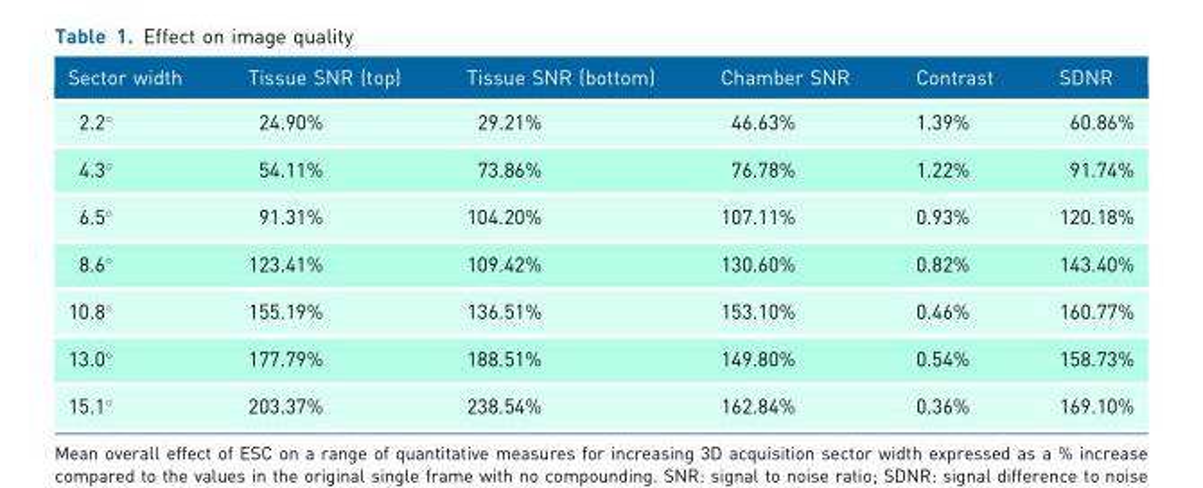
<table><thead><tr><td>Sector width</td><td>Tissue SNR (top)</td><td>Tissue SNR (bottom)</td><td>Chamber SNR</td><td>Contrast</td><td>SDNR</td></tr></thead><tbody><tr><td>2.2°</td><td>24.90%</td><td>29.21%</td><td>46.63%</td><td>1.39%</td><td>60.86%</td></tr><tr><td>4.3°</td><td>54.11%</td><td>73.86%</td><td>76.78%</td><td>1.22%</td><td>91.74%</td></tr><tr><td>6.5°</td><td>91.31%</td><td>104.20%</td><td>107.11%</td><td>0.93%</td><td>120.18%</td></tr><tr><td>8.6°</td><td>123.41%</td><td>109.42%</td><td>130.60%</td><td>0.82%</td><td>143.40%</td></tr><tr><td>10.8°</td><td>155.19%</td><td>136.51%</td><td>153.10%</td><td>0.46%</td><td>160.77%</td></tr><tr><td>13.0°</td><td>177.79%</td><td>188.51%</td><td>149.80%</td><td>0.54%</td><td>158.73%</td></tr><tr><td>15.1°</td><td>203.37%</td><td>238.54%</td><td>162.84%</td><td>0.36%</td><td>169.10%</td></tr></tbody></table>